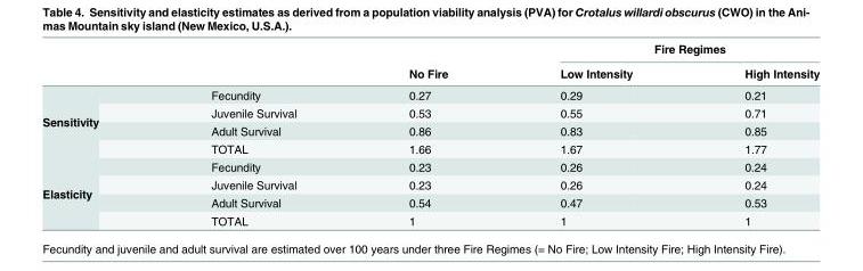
<table><thead><tr><td rowspan="2"></td><td rowspan="2"></td><td rowspan="2">No Fire</td><td colspan="2">Fire Regimes</td></tr><tr><td>Low Intensity</td><td>High Intensity</td></tr></thead><tbody><tr><td rowspan="4">Sensitivity</td><td>Fecundity</td><td>0.27</td><td>0.29</td><td>0.21</td></tr><tr><td>Juvenile Survival</td><td>0.53</td><td>0.55</td><td>0.71</td></tr><tr><td>Adult Survival</td><td>0.86</td><td>0.83</td><td>0.85</td></tr><tr><td>TOTAL</td><td>1.66</td><td>1.67</td><td>1.77</td></tr><tr><td rowspan="4">Elasticity</td><td>Fecundity</td><td>0.23</td><td>0.26</td><td>0.24</td></tr><tr><td>Juvenile Survival</td><td>0.23</td><td>0.26</td><td>0.24</td></tr><tr><td>Adult Survival</td><td>0.54</td><td>0.47</td><td>0.53</td></tr><tr><td>TOTAL</td><td>1</td><td>1</td><td>1</td></tr></tbody></table>